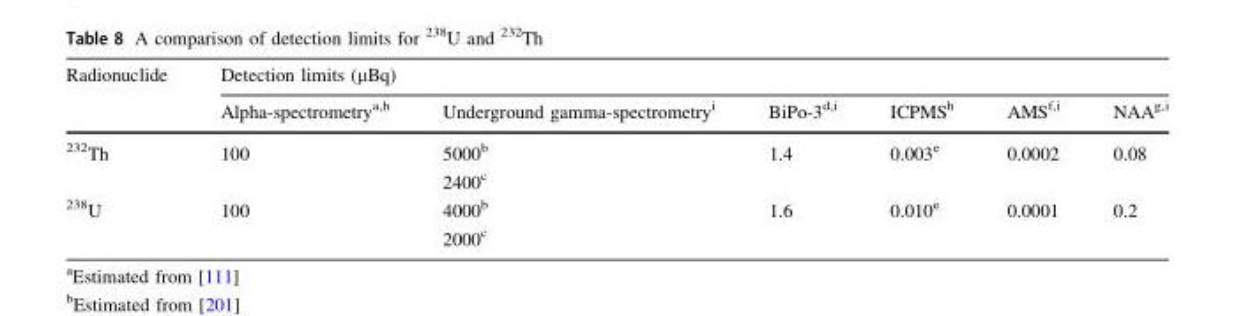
<table><thead><tr><td rowspan="2">Radionuclide</td><td colspan="6">Detection limits (µBq)</td></tr><tr><td>Alpha-spectrometry<sup>a,h</sup></td><td>Underground gamma-spectrometry<sup>i</sup></td><td>BiPo-3<sup>d,i</sup></td><td>ICPMS<sup>h</sup></td><td>AMS<sup>f,i</sup></td><td>NAA<sup>g,i</sup></td></tr></thead><tbody><tr><td><sup>232</sup>Th</td><td>100</td><td>5000<sup>b</sup> 2400<sup>c</sup></td><td>1.4</td><td>0.003<sup>e</sup></td><td>0.0002</td><td>0.08</td></tr><tr><td><sup>238</sup>U</td><td>100</td><td>4000<sup>b</sup> 2000<sup>c</sup></td><td>1.6</td><td>0.010<sup>e</sup></td><td>0.0001</td><td>0.2</td></tr></tbody></table>